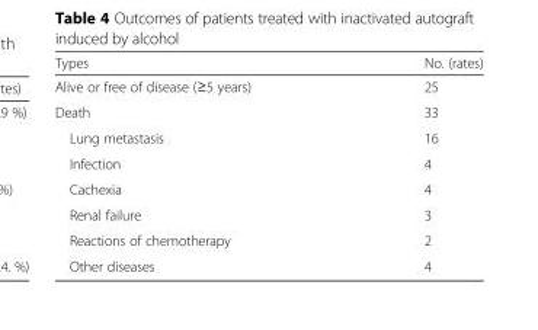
<table><thead><tr><td>Types</td><td>No. (rates)</td></tr></thead><tbody><tr><td>Alive or free of disease (≥5 years)</td><td>25</td></tr><tr><td>Death</td><td>33</td></tr><tr><td>Lung metastasis</td><td>16</td></tr><tr><td>Infection</td><td>4</td></tr><tr><td>Cachexia</td><td>4</td></tr><tr><td>Renal failure</td><td>3</td></tr><tr><td>Reactions of chemotherapy</td><td>2</td></tr><tr><td>Other diseases</td><td>4</td></tr></tbody></table>